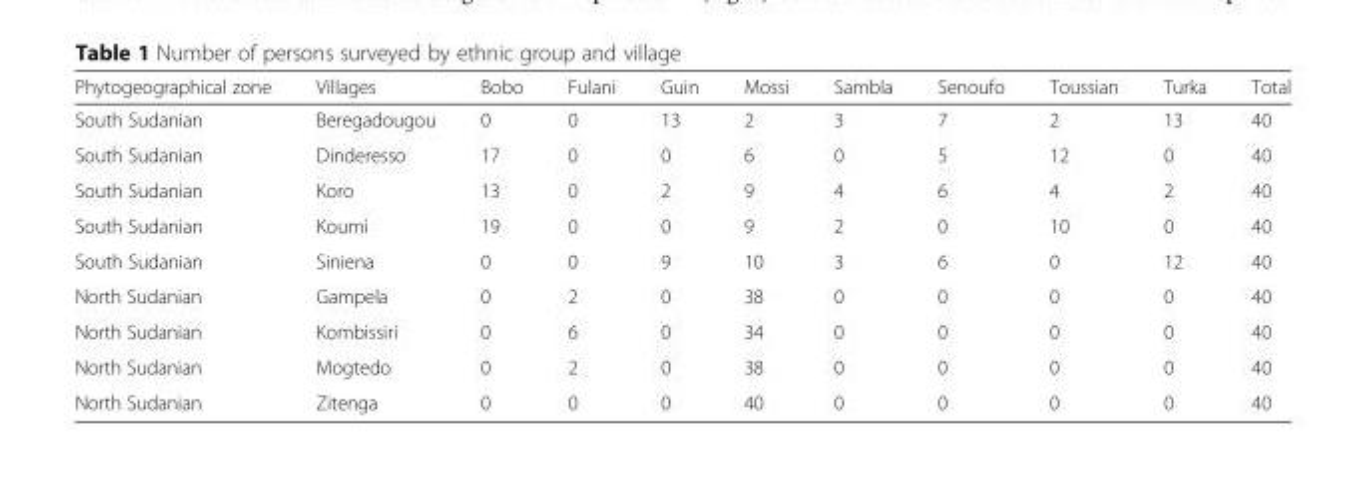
<table><thead><tr><td>Phytogeographical zone</td><td>Villages</td><td>Bobo</td><td>Fulani</td><td>Guin</td><td>Mossi</td><td>Sambla</td><td>Senoufo</td><td>Toussian</td><td>Turka</td><td>Total</td></tr></thead><tbody><tr><td>South Sudanian</td><td>Beregadougou</td><td>0</td><td>0</td><td>13</td><td>2</td><td>3</td><td>7</td><td>2</td><td>13</td><td>40</td></tr><tr><td>South Sudanian</td><td>Dinderesso</td><td>17</td><td>0</td><td>0</td><td>6</td><td>0</td><td>5</td><td>12</td><td>0</td><td>40</td></tr><tr><td>South Sudanian</td><td>Koro</td><td>13</td><td>0</td><td>2</td><td>9</td><td>4</td><td>6</td><td>4</td><td>2</td><td>40</td></tr><tr><td>South Sudanian</td><td>Koumi</td><td>19</td><td>0</td><td>0</td><td>9</td><td>2</td><td>0</td><td>10</td><td>0</td><td>40</td></tr><tr><td>South Sudanian</td><td>Siniena</td><td>0</td><td>0</td><td>9</td><td>10</td><td>3</td><td>6</td><td>0</td><td>12</td><td>40</td></tr><tr><td>North Sudanian</td><td>Gampela</td><td>0</td><td>2</td><td>0</td><td>38</td><td>0</td><td>0</td><td>0</td><td>0</td><td>40</td></tr><tr><td>North Sudanian</td><td>Kombissiri</td><td>0</td><td>6</td><td>0</td><td>34</td><td>0</td><td>0</td><td>0</td><td>0</td><td>40</td></tr><tr><td>North Sudanian</td><td>Mogtedo</td><td>0</td><td>2</td><td>0</td><td>38</td><td>0</td><td>0</td><td>0</td><td>0</td><td>40</td></tr><tr><td>North Sudanian</td><td>Zitenga</td><td>0</td><td>0</td><td>0</td><td>40</td><td>0</td><td>0</td><td>0</td><td>0</td><td>40</td></tr></tbody></table>